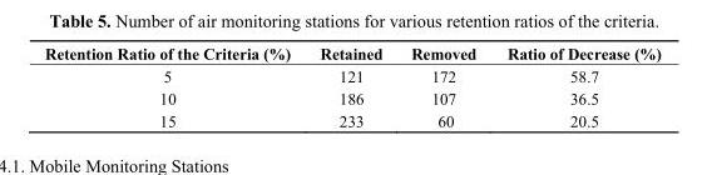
<table><thead><tr><td>Retention Ratio of the Criteria (%)</td><td>Retained</td><td>Removed</td><td>Ratio of Decrease (%)</td></tr></thead><tbody><tr><td>5</td><td>121</td><td>172</td><td>58.7</td></tr><tr><td>10</td><td>186</td><td>107</td><td>36.5</td></tr><tr><td>15</td><td>233</td><td>60</td><td>20.5</td></tr></tbody></table>